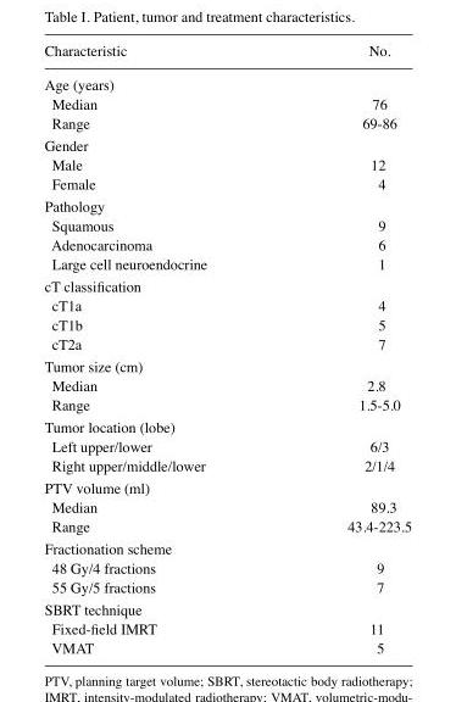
<table><thead><tr><td>Characteristic</td><td>No.</td></tr></thead><tbody><tr><td colspan="2">Age (years)</td></tr><tr><td>Median</td><td>76</td></tr><tr><td>Range</td><td>69-86</td></tr><tr><td colspan="2">Gender</td></tr><tr><td>Male</td><td>12</td></tr><tr><td>Female</td><td>4</td></tr><tr><td colspan="2">Pathology</td></tr><tr><td>Squamous</td><td>9</td></tr><tr><td>Adenocarcinoma</td><td>6</td></tr><tr><td>Large cell neuroendocrine</td><td>1</td></tr><tr><td colspan="2">cT classification</td></tr><tr><td>cT1a</td><td>4</td></tr><tr><td>cT1b</td><td>5</td></tr><tr><td>cT2a</td><td>7</td></tr><tr><td colspan="2">Tumor size (cm)</td></tr><tr><td>Median</td><td>2.8</td></tr><tr><td>Range</td><td>1.5-5.0</td></tr><tr><td colspan="2">Tumor location (lobe)</td></tr><tr><td>Left upper/lower</td><td>6/3</td></tr><tr><td>Right upper/middle/lower</td><td>2/1/4</td></tr><tr><td colspan="2">PTV volume (ml)</td></tr><tr><td>Median</td><td>89.3</td></tr><tr><td>Range</td><td>43.4-223.5</td></tr><tr><td colspan="2">Fractionation scheme</td></tr><tr><td>48 Gy/4 fractions</td><td>9</td></tr><tr><td>55 Gy/5 fractions</td><td>7</td></tr><tr><td colspan="2">SBRT technique</td></tr><tr><td>Fixed-field IMRT</td><td>11</td></tr><tr><td>VMAT</td><td>5</td></tr></tbody></table>